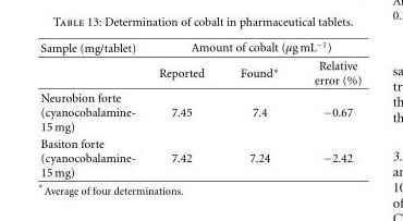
<table><thead><tr><td rowspan="2">Sample (mg/tablet)</td><td colspan="3">Amount of cobalt (μg mL<sup>−1</sup>)</td></tr><tr><td>Reported</td><td>Found∗</td><td>Relative error (%)</td></tr></thead><tbody><tr><td>Neurobion forte (cyanocobalamine- 15 mg)</td><td>7.45</td><td>7.4</td><td>−0.67</td></tr><tr><td>Basiton forte (cyanocobalamine- 15 mg)</td><td>7.42</td><td>7.24</td><td>−2.42</td></tr></tbody></table>